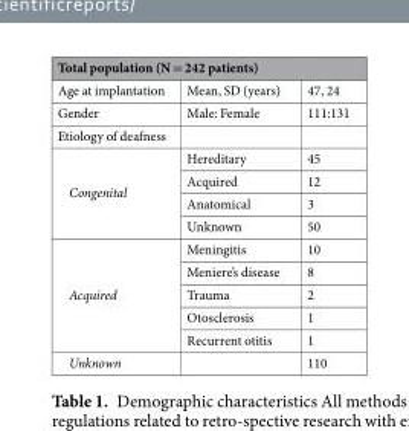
<table><thead><tr><td colspan="3">Total population (N = 242 patients)</td></tr><tr><td>Age at implantation</td><td>Mean, SD (years)</td><td>47, 24</td></tr></thead><tbody><tr><td>Gender</td><td>Male: Female</td><td>111:131</td></tr><tr><td colspan="3">Etiology of deafness</td></tr><tr><td rowspan="4">Congenital</td><td>Hereditary</td><td>45</td></tr><tr><td>Acquired</td><td>12</td></tr><tr><td>Anatomical</td><td>3</td></tr><tr><td>Unknown</td><td>50</td></tr><tr><td rowspan="5">Acquired</td><td>Meningitis</td><td>10</td></tr><tr><td>Meniere’s disease</td><td>8</td></tr><tr><td>Trauma</td><td>2</td></tr><tr><td>Otosclerosis</td><td>1</td></tr><tr><td>Recurrent otitis</td><td>1</td></tr><tr><td>Unknown</td><td></td><td>110</td></tr></tbody></table>